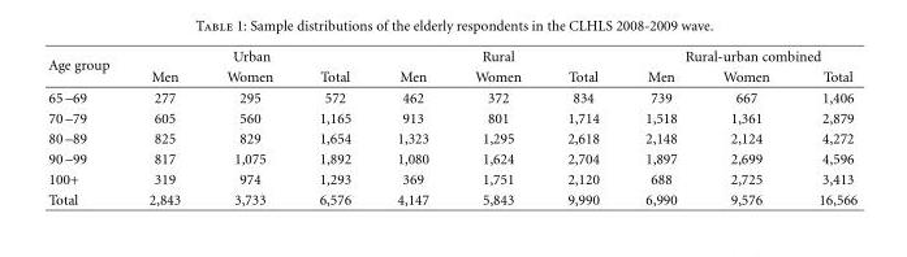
<table><thead><tr><td rowspan="2">Age group</td><td colspan="3">Urban</td><td colspan="3">Rural</td><td colspan="3">Rural-urban combined</td></tr><tr><td>Men</td><td>Women</td><td>Total</td><td>Men</td><td>Women</td><td>Total</td><td>Men</td><td>Women</td><td>Total</td></tr></thead><tbody><tr><td>65 –69</td><td>277</td><td>295</td><td>572</td><td>462</td><td>372</td><td>834</td><td>739</td><td>667</td><td>1,406</td></tr><tr><td>70 –79</td><td>605</td><td>560</td><td>1,165</td><td>913</td><td>801</td><td>1,714</td><td>1,518</td><td>1,361</td><td>2,879</td></tr><tr><td>80 –89</td><td>825</td><td>829</td><td>1,654</td><td>1,323</td><td>1,295</td><td>2,618</td><td>2,148</td><td>2,124</td><td>4,272</td></tr><tr><td>90 –99</td><td>817</td><td>1,075</td><td>1,892</td><td>1,080</td><td>1,624</td><td>2,704</td><td>1,897</td><td>2,699</td><td>4,596</td></tr><tr><td>100+</td><td>319</td><td>974</td><td>1,293</td><td>369</td><td>1,751</td><td>2,120</td><td>688</td><td>2,725</td><td>3,413</td></tr><tr><td>Total</td><td>2,843</td><td>3,733</td><td>6,576</td><td>4,147</td><td>5,843</td><td>9,990</td><td>6,990</td><td>9,576</td><td>16,566</td></tr></tbody></table>